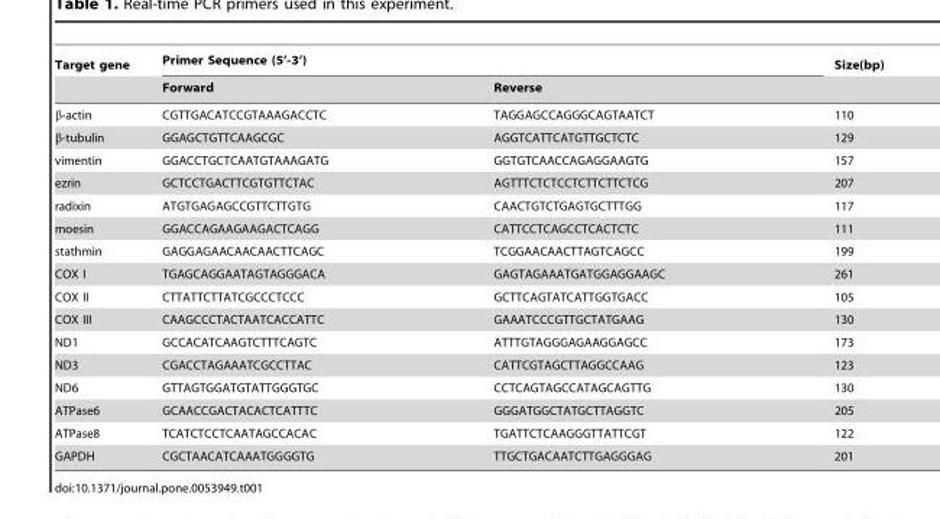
<table><thead><tr><td rowspan="2">Target gene</td><td colspan="2">Primer Sequence (5’-3’)</td><td rowspan="2">Size(bp)</td></tr><tr><td>Forward</td><td>Reverse</td></tr></thead><tbody><tr><td>β-actin</td><td>CGTTGACATCCGTAAAGACCTC</td><td>TAGGAGCCAGGGCAGTAATCT</td><td>110</td></tr><tr><td>β-tubulin</td><td>GGAGCTGTTCAAGCGC</td><td>AGGTCATTCATGTTGCTCTC</td><td>129</td></tr><tr><td>vimentin</td><td>GGACCTGCTCAATGTAAAGATG</td><td>GGTGTCAACCAGAGGAAGTG</td><td>157</td></tr><tr><td>ezrin</td><td>GCTCCTGACTTCGTGTTCTAC</td><td>AGTTTCTCTCCTCTTCTTCTCG</td><td>207</td></tr><tr><td>radixin</td><td>ATGTGAGAGCCGTTCTTGTG</td><td>CAACTGTCTGAGTGCTTTGG</td><td>117</td></tr><tr><td>moesin</td><td>GGACCAGAAGAAGACTCAGG</td><td>CATTCCTCAGCCTCACTCTC</td><td>111</td></tr><tr><td>stathmin</td><td>GAGGAGAACAACAACTTCAGC</td><td>TCGGAACAACTTAGTCAGCC</td><td>199</td></tr><tr><td>COX I</td><td>TGAGCAGGAATAGTAGGGACA</td><td>GAGTAGAAATGATGGAGGAAGC</td><td>261</td></tr><tr><td>COX II</td><td>CTTATTCTTATCGCCCTCCC</td><td>GCTTCAGTATCATTGGTGACC</td><td>105</td></tr><tr><td>COX III</td><td>CAAGCCCTACTAATCACCATTC</td><td>GAAATCCCGTTGCTATGAAG</td><td>130</td></tr><tr><td>ND1</td><td>GCCACATCAAGTCTTTCAGTC</td><td>ATTTGTAGGGAGAAGGAGCC</td><td>173</td></tr><tr><td>ND3</td><td>CGACCTAGAAATCGCCTTAC</td><td>CATTCGTAGCTTAGGCCAAG</td><td>123</td></tr><tr><td>ND6</td><td>GTTAGTGGATGTATTGGGTGC</td><td>CCTCAGTAGCCATAGCAGTTG</td><td>130</td></tr><tr><td>ATPase6</td><td>GCAACCGACTACACTCATTTC</td><td>GGGATGGCTATGCTTAGGTC</td><td>205</td></tr><tr><td>ATPase8</td><td>TCATCTCCTCAATAGCCACAC</td><td>TGATTCTCAAGGGTTATTCGT</td><td>122</td></tr><tr><td>GAPDH</td><td>CGCTAACATCAAATGGGGTG</td><td>TTGCTGACAATCTTGAGGGAG</td><td>201</td></tr></tbody></table>